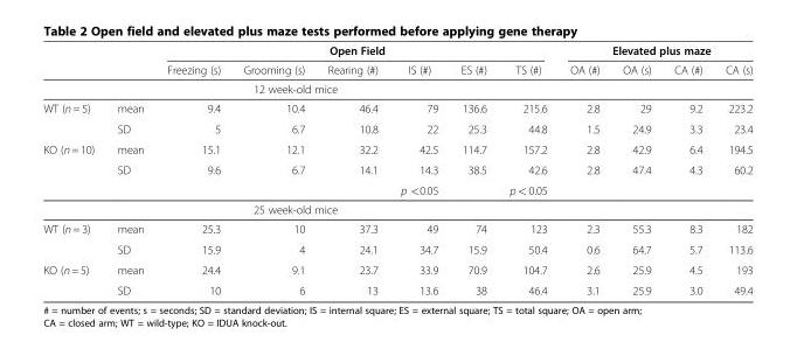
<table><thead><tr><td></td><td></td><td colspan="6">Open Field</td><td colspan="4">Elevated plus maze</td></tr><tr><td colspan="2"></td><td>Freezing (s)</td><td>Grooming (s)</td><td>Rearing (#)</td><td>IS (#)</td><td>ES (#)</td><td>TS (#)</td><td>OA (#)</td><td>OA (s)</td><td>CA (#)</td><td>CA (s)</td></tr></thead><tbody><tr><td colspan="12">12 week-old mice</td></tr><tr><td rowspan="2">WT (n = 5)</td><td>mean</td><td>9.4</td><td>10.4</td><td>46.4</td><td>79</td><td>136.6</td><td>215.6</td><td>2.8</td><td>29</td><td>9.2</td><td>223.2</td></tr><tr><td>SD</td><td>5</td><td>6.7</td><td>10.8</td><td>22</td><td>25.3</td><td>44.8</td><td>1.5</td><td>24.9</td><td>3.3</td><td>23.4</td></tr><tr><td rowspan="3">KO (n = 10)</td><td>mean</td><td>15.1</td><td>12.1</td><td>32.2</td><td>42.5</td><td>114.7</td><td>157.2</td><td>2.8</td><td>42.9</td><td>6.4</td><td>194.5</td></tr><tr><td>SD</td><td>9.6</td><td>6.7</td><td>14.1</td><td>14.3</td><td>38.5</td><td>42.6</td><td>2.8</td><td>47.4</td><td>4.3</td><td>60.2</td></tr><tr><td></td><td></td><td></td><td></td><td>p &lt;0.05</td><td></td><td>p &lt; 0.05</td><td></td><td></td><td></td><td></td></tr><tr><td colspan="12">25 week-old mice</td></tr><tr><td rowspan="2">WT (n = 3)</td><td>mean</td><td>25.3</td><td>10</td><td>37.3</td><td>49</td><td>74</td><td>123</td><td>2.3</td><td>55.3</td><td>8.3</td><td>182</td></tr><tr><td>SD</td><td>15.9</td><td>4</td><td>24.1</td><td>34.7</td><td>15.9</td><td>50.4</td><td>0.6</td><td>64.7</td><td>5.7</td><td>113.6</td></tr><tr><td rowspan="2">KO (n = 5)</td><td>mean</td><td>24.4</td><td>9.1</td><td>23.7</td><td>33.9</td><td>70.9</td><td>104.7</td><td>2.6</td><td>25.9</td><td>4.5</td><td>193</td></tr><tr><td>SD</td><td>10</td><td>6</td><td>13</td><td>13.6</td><td>38</td><td>46.4</td><td>3.1</td><td>25.9</td><td>3.0</td><td>49.4</td></tr></tbody></table>